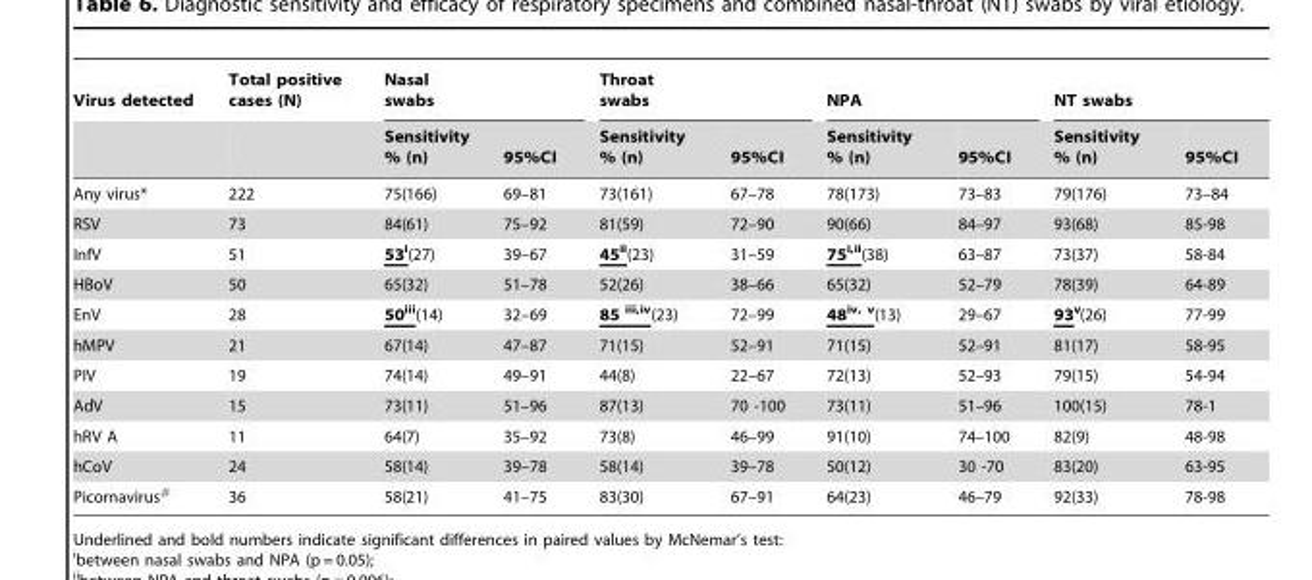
<table><thead><tr><td rowspan="2">Virus detected</td><td rowspan="2">Total positive cases (N)</td><td colspan="2">Nasal swabs</td><td colspan="2">Throat swabs</td><td colspan="2">NPA</td><td colspan="2">NT swabs</td></tr><tr><td>Sensitivity % (n)</td><td>95%CI</td><td>Sensitivity % (n)</td><td>95%CI</td><td>Sensitivity % (n)</td><td>95%CI</td><td>Sensitivity % (n)</td><td>95%CI</td></tr></thead><tbody><tr><td>Any virus*</td><td>222</td><td>75(166)</td><td>69–81</td><td>73(161)</td><td>67–78</td><td>78(173)</td><td>73–83</td><td>79(176)</td><td>73–84</td></tr><tr><td>RSV</td><td>73</td><td>84(61)</td><td>75–92</td><td>81(59)</td><td>72–90</td><td>90(66)</td><td>84–97</td><td>93(68)</td><td>85-98</td></tr><tr><td>InfV</td><td>51</td><td>53i(27)</td><td>39–67</td><td>45ii(23)</td><td>31–59</td><td>75i,ii(38)</td><td>63–87</td><td>73(37)</td><td>58-84</td></tr><tr><td>HBoV</td><td>50</td><td>65(32)</td><td>51–78</td><td>52(26)</td><td>38–66</td><td>65(32)</td><td>52–79</td><td>78(39)</td><td>64-89</td></tr><tr><td>EnV</td><td>28</td><td>50iii(14)</td><td>32–69</td><td>85 iii,iv(23)</td><td>72–99</td><td>48iv, v(13)</td><td>29–67</td><td>93v(26)</td><td>77-99</td></tr><tr><td>hMPV</td><td>21</td><td>67(14)</td><td>47–87</td><td>71(15)</td><td>52–91</td><td>71(15)</td><td>52–91</td><td>81(17)</td><td>58-95</td></tr><tr><td>PIV</td><td>19</td><td>74(14)</td><td>49–91</td><td>44(8)</td><td>22–67</td><td>72(13)</td><td>52–93</td><td>79(15)</td><td>54-94</td></tr><tr><td>AdV</td><td>15</td><td>73(11)</td><td>51–96</td><td>87(13)</td><td>70 -100</td><td>73(11)</td><td>51–96</td><td>100(15)</td><td>78-1</td></tr><tr><td>hRV A</td><td>11</td><td>64(7)</td><td>35–92</td><td>73(8)</td><td>46–99</td><td>91(10)</td><td>74–100</td><td>82(9)</td><td>48-98</td></tr><tr><td>hCoV</td><td>24</td><td>58(14)</td><td>39–78</td><td>58(14)</td><td>39–78</td><td>50(12)</td><td>30 -70</td><td>83(20)</td><td>63-95</td></tr><tr><td>Picornavirus#</td><td>36</td><td>58(21)</td><td>41–75</td><td>83(30)</td><td>67–91</td><td>64(23)</td><td>46–79</td><td>92(33)</td><td>78-98</td></tr></tbody></table>